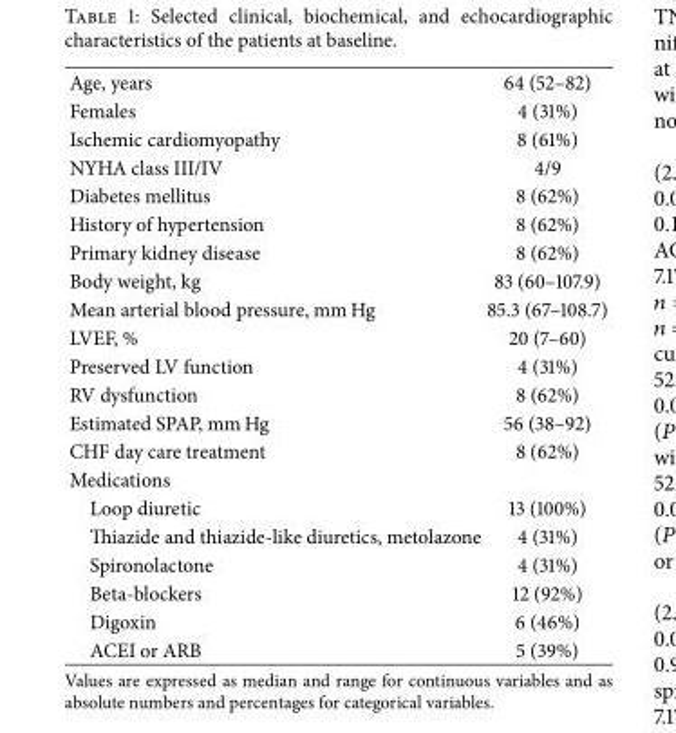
<table><tbody><tr><td>Age, years</td><td>64 (52–82)</td></tr><tr><td>Females</td><td>4 (31%)</td></tr><tr><td>Ischemic cardiomyopathy</td><td>8 (61%)</td></tr><tr><td>NYHA class III/IV</td><td>4/9</td></tr><tr><td>Diabetes mellitus</td><td>8 (62%)</td></tr><tr><td>History of hypertension</td><td>8 (62%)</td></tr><tr><td>Primary kidney disease</td><td>8 (62%)</td></tr><tr><td>Body weight, kg</td><td>83 (60–107.9)</td></tr><tr><td>Mean arterial blood pressure, mm Hg</td><td>85.3 (67–108.7)</td></tr><tr><td>LVEF, %</td><td>20 (7–60)</td></tr><tr><td>Preserved LV function</td><td>4 (31%)</td></tr><tr><td>RV dysfunction</td><td>8 (62%)</td></tr><tr><td>Estimated SPAP, mm Hg</td><td>56 (38–92)</td></tr><tr><td>CHF day care treatment</td><td>8 (62%)</td></tr><tr><td colspan="2">Medications</td></tr><tr><td>Loop diuretic</td><td>13 (100%)</td></tr><tr><td>Thiazide and thiazide-like diuretics, metolazone</td><td>4 (31%)</td></tr><tr><td>Spironolactone</td><td>4 (31%)</td></tr><tr><td>Beta-blockers</td><td>12 (92%)</td></tr><tr><td>Digoxin</td><td>6 (46%)</td></tr><tr><td>ACEI or ARB</td><td>5 (39%)</td></tr></tbody></table>